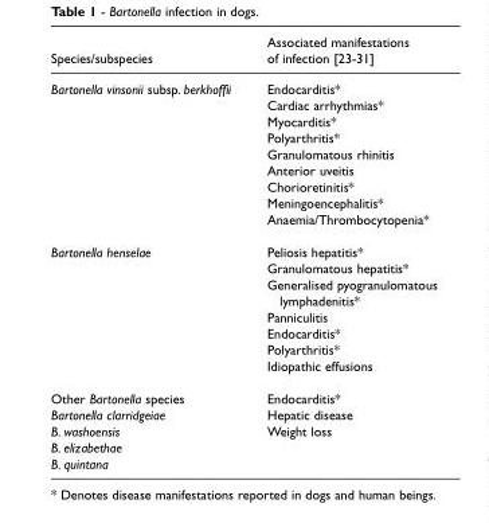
<table><thead><tr><td>Species/subspecies</td><td>of infection [23-31]</td></tr></thead><tbody><tr><td rowspan="9">Bartonella vinsonii subsp. berkhoffii</td><td>Endocarditis*</td></tr><tr><td>Cardiac arrhythmias*</td></tr><tr><td>Myocarditis*</td></tr><tr><td>Polyarthritis*</td></tr><tr><td>Granulomatous rhinitis</td></tr><tr><td>Anterior uveitis</td></tr><tr><td>Chorioretinitis*</td></tr><tr><td>Meningoencephalitis*</td></tr><tr><td>Anaemia/Thrombocytopenia*</td></tr><tr><td rowspan="7">Bartonella henselae</td><td>Peliosis hepatitis*</td></tr><tr><td>Granulomatous hepatitis*</td></tr><tr><td>Generalised pyogranulomatous lymphadenitis*</td></tr><tr><td>Panniculitis</td></tr><tr><td>Endocarditis*</td></tr><tr><td>Polyarthritis*</td></tr><tr><td>Idiopathic effusions</td></tr><tr><td>Other Bartonella species</td><td>Endocarditis*</td></tr><tr><td>Bartonella clarridgeiae</td><td>Hepatic disease</td></tr><tr><td>B. washoensis</td><td>Weight loss</td></tr><tr><td colspan="2">B. elizabethae</td></tr><tr><td>B. quintana</td><td></td></tr></tbody></table>